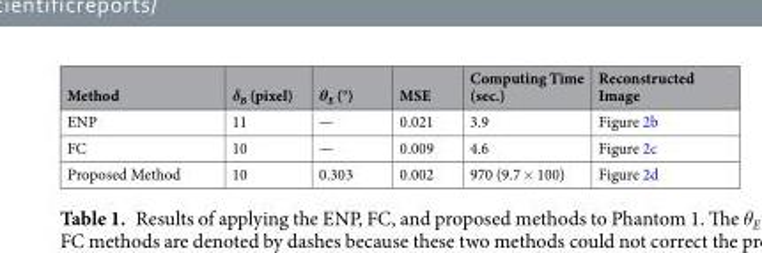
<table><thead><tr><td>Method</td><td>δ<sub>B</sub> (pixel)</td><td>θ<sub>E</sub> (°)</td><td>MSE</td><td>Computing Time (sec.)</td><td>Reconstructed Image</td></tr></thead><tbody><tr><td>ENP</td><td>11</td><td>—</td><td>0.021</td><td>3.9</td><td>Figure 2b</td></tr><tr><td>FC</td><td>10</td><td>—</td><td>0.009</td><td>4.6</td><td>Figure 2c</td></tr><tr><td>Proposed Method</td><td>10</td><td>0.303</td><td>0.002</td><td>970 (9.7 × 100)</td><td>Figure 2d</td></tr></tbody></table>